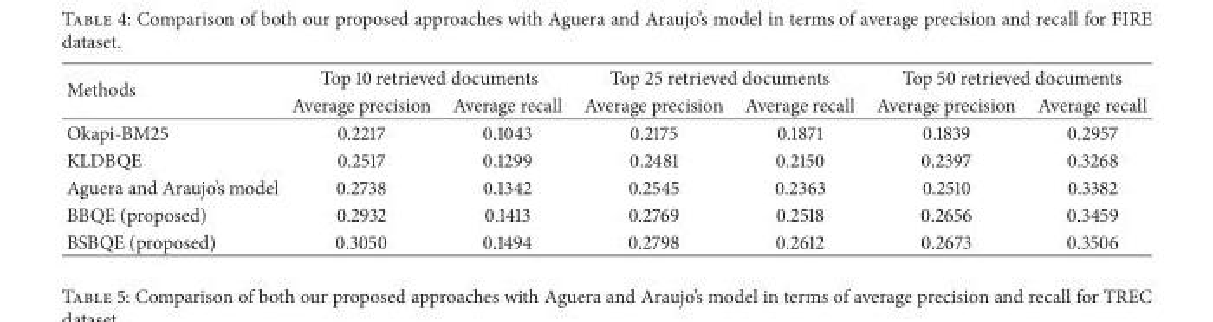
<table><thead><tr><td rowspan="2">Methods</td><td colspan="2">Top 10 retrieved documents</td><td colspan="2">Top 25 retrieved documents</td><td colspan="2">Top 50 retrieved documents</td></tr><tr><td>Average precision</td><td>Average recall</td><td>Average precision</td><td>Average recall</td><td>Average precision</td><td>Average recall</td></tr></thead><tbody><tr><td>Okapi-BM25</td><td>0.2217</td><td>0.1043</td><td>0.2175</td><td>0.1871</td><td>0.1839</td><td>0.2957</td></tr><tr><td>KLDBQE</td><td>0.2517</td><td>0.1299</td><td>0.2481</td><td>0.2150</td><td>0.2397</td><td>0.3268</td></tr><tr><td>Aguera and Araujo’s model</td><td>0.2738</td><td>0.1342</td><td>0.2545</td><td>0.2363</td><td>0.2510</td><td>0.3382</td></tr><tr><td>BBQE (proposed)</td><td>0.2932</td><td>0.1413</td><td>0.2769</td><td>0.2518</td><td>0.2656</td><td>0.3459</td></tr><tr><td>BSBQE (proposed)</td><td>0.3050</td><td>0.1494</td><td>0.2798</td><td>0.2612</td><td>0.2673</td><td>0.3506</td></tr></tbody></table>